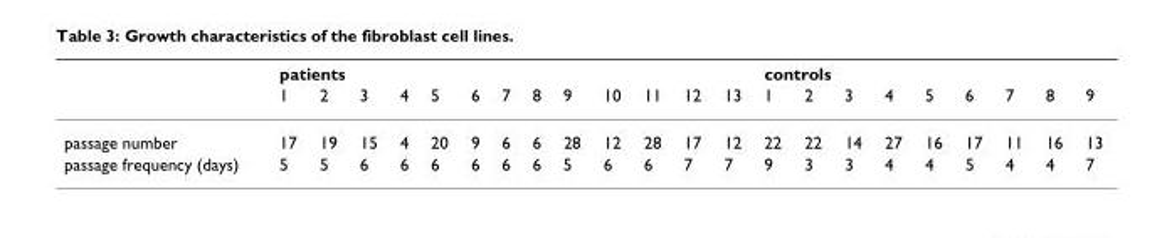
<table><thead><tr><td rowspan="2"></td><td colspan="13">patients</td><td colspan="9">controls</td></tr><tr><td>1</td><td>2</td><td>3</td><td>4</td><td>5</td><td>6</td><td>7</td><td>8</td><td>9</td><td>10</td><td>11</td><td>12</td><td>13</td><td>1</td><td>2</td><td>3</td><td>4</td><td>5</td><td>6</td><td>7</td><td>8</td><td>9</td></tr></thead><tbody><tr><td>passage number</td><td>17</td><td>19</td><td>15</td><td>4</td><td>20</td><td>9</td><td>6</td><td>6</td><td>28</td><td>12</td><td>28</td><td>17</td><td>12</td><td>22</td><td>22</td><td>14</td><td>27</td><td>16</td><td>17</td><td>11</td><td>16</td><td>13</td></tr><tr><td>passage frequency (days)</td><td>5</td><td>5</td><td>6</td><td>6</td><td>6</td><td>6</td><td>6</td><td>6</td><td>5</td><td>6</td><td>6</td><td>7</td><td>7</td><td>9</td><td>3</td><td>3</td><td>4</td><td>4</td><td>5</td><td>4</td><td>4</td><td>7</td></tr></tbody></table>